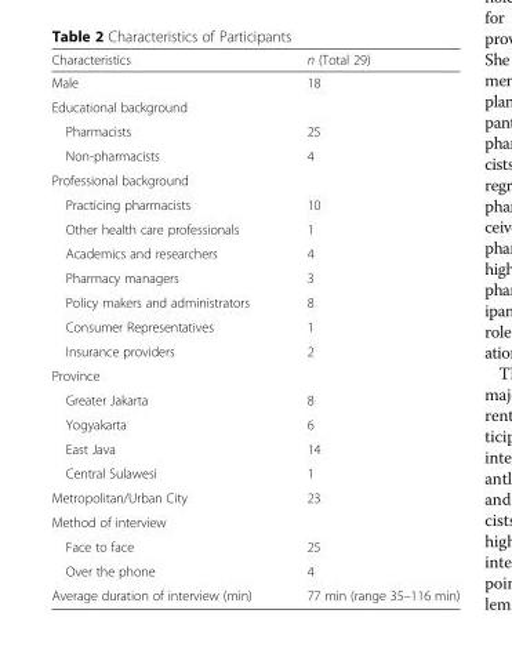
<table><thead><tr><td>Characteristics</td><td>n (Total 29)</td></tr></thead><tbody><tr><td>Male</td><td>18</td></tr><tr><td colspan="2">Educational background</td></tr><tr><td>Pharmacists</td><td>25</td></tr><tr><td>Non-pharmacists</td><td>4</td></tr><tr><td colspan="2">Professional background</td></tr><tr><td>Practicing pharmacists</td><td>10</td></tr><tr><td>Other health care professionals</td><td>1</td></tr><tr><td>Academics and researchers</td><td>4</td></tr><tr><td>Pharmacy managers</td><td>3</td></tr><tr><td>Policy makers and administrators</td><td>8</td></tr><tr><td>Consumer Representatives</td><td>1</td></tr><tr><td>Insurance providers</td><td>2</td></tr><tr><td colspan="2">Province</td></tr><tr><td>Greater Jakarta</td><td>8</td></tr><tr><td>Yogyakarta</td><td>6</td></tr><tr><td>East Java</td><td>14</td></tr><tr><td>Central Sulawesi</td><td>1</td></tr><tr><td>Metropolitan/Urban City</td><td>23</td></tr><tr><td colspan="2">Method of interview</td></tr><tr><td>Face to face</td><td>25</td></tr><tr><td>Over the phone</td><td>4</td></tr><tr><td>Average duration of interview (min)</td><td>77 min (range 35–116 min)</td></tr></tbody></table>